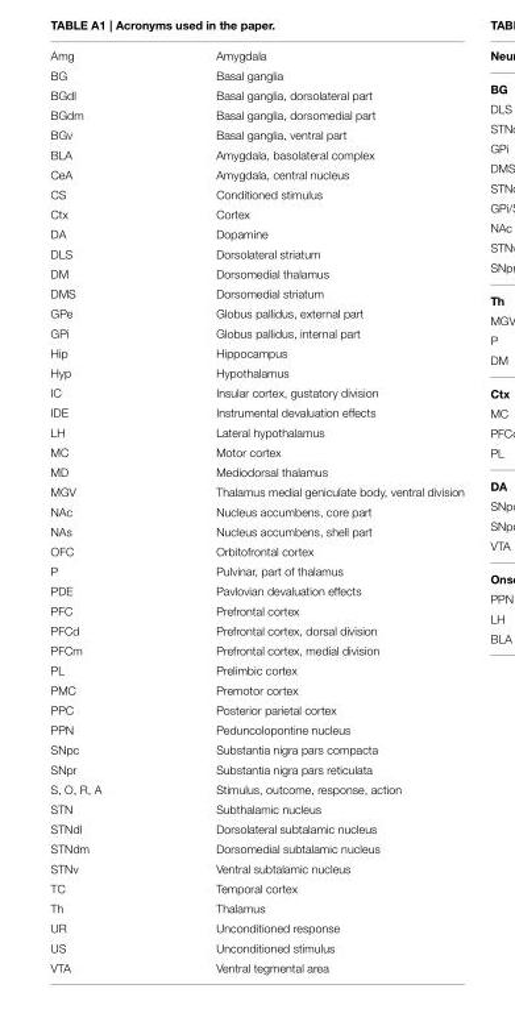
<table><tbody><tr><td>Amg</td><td>Amygdala</td></tr><tr><td>BG</td><td>Basal ganglia</td></tr><tr><td>BGdl</td><td>Basal ganglia, dorsolateral part</td></tr><tr><td>BGdm</td><td>Basal ganglia, dorsomedial part</td></tr><tr><td>BGv</td><td>Basal ganglia, ventral part</td></tr><tr><td>BLA</td><td>Amygdala, basolateral complex</td></tr><tr><td>CeA</td><td>Amygdala, central nucleus</td></tr><tr><td>CS</td><td>Conditioned stimulus</td></tr><tr><td>Ctx</td><td>Cortex</td></tr><tr><td>DA</td><td>Dopamine</td></tr><tr><td>DLS</td><td>Dorsolateral striatum</td></tr><tr><td>DM</td><td>Dorsomedial thalamus</td></tr><tr><td>DMS</td><td>Dorsomedial striatum</td></tr><tr><td>GPe</td><td>Globus pallidus, external part</td></tr><tr><td>GPi</td><td>Globus pallidus, internal part</td></tr><tr><td>Hip</td><td>Hippocampus</td></tr><tr><td>Hyp</td><td>Hypothalamus</td></tr><tr><td>IC</td><td>Insular cortex, gustatory division</td></tr><tr><td>IDE</td><td>Instrumental devaluation effects</td></tr><tr><td>LH</td><td>Lateral hypothalamus</td></tr><tr><td>MC</td><td>Motor cortex</td></tr><tr><td>MD</td><td>Mediodorsal thalamus</td></tr><tr><td>MGV</td><td>Thalamus medial geniculate body, ventral division</td></tr><tr><td>NAc</td><td>Nucleus accumbens, core part</td></tr><tr><td>NAs</td><td>Nucleus accumbens, shell part</td></tr><tr><td>OFC</td><td>Orbitofrontal cortex</td></tr><tr><td>P</td><td>Pulvinar, part of thalamus</td></tr><tr><td>PDE</td><td>Pavlovian devaluation effects</td></tr><tr><td>PFC</td><td>Prefrontal cortex</td></tr><tr><td>PFCd</td><td>Prefrontal cortex, dorsal division</td></tr><tr><td>PFCm</td><td>Prefrontal cortex, medial division</td></tr><tr><td>PL</td><td>Prelimbic cortex</td></tr><tr><td>PMC</td><td>Premotor cortex</td></tr><tr><td>PPC</td><td>Posterior parietal cortex</td></tr><tr><td>PPN</td><td>Peduncolopontine nucleus</td></tr><tr><td>SNpc</td><td>Substantia nigra pars compacta</td></tr><tr><td>SNpr</td><td>Substantia nigra pars reticulata</td></tr><tr><td>S, O, R, A</td><td>Stimulus, outcome, response, action</td></tr><tr><td>STN</td><td>Subthalamic nucleus</td></tr><tr><td>STNdl</td><td>Dorsolateral subtalamic nucleus</td></tr><tr><td>STNdm</td><td>Dorsomedial subtalamic nucleus</td></tr><tr><td>STNv</td><td>Ventral subtalamic nucleus</td></tr><tr><td>TC</td><td>Temporal cortex</td></tr><tr><td>Th</td><td>Thalamus</td></tr><tr><td>UR</td><td>Unconditioned response</td></tr><tr><td>US</td><td>Unconditioned stimulus</td></tr><tr><td>VTA</td><td>Ventral tegmental area</td></tr></tbody></table>